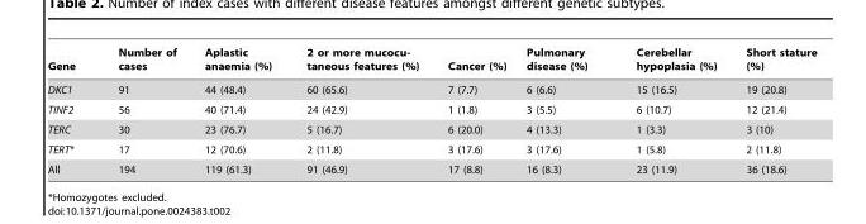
<table><thead><tr><td>Gene</td><td>Number of cases</td><td>Aplastic anaemia (%)</td><td>2 or more mucocu- taneous features (%)</td><td>Cancer (%)</td><td>Pulmonary disease (%)</td><td>Cerebellar hypoplasia (%)</td><td>Short stature (%)</td></tr></thead><tbody><tr><td>DKC1</td><td>91</td><td>44 (48.4)</td><td>60 (65.6)</td><td>7 (7.7)</td><td>6 (6.6)</td><td>15 (16.5)</td><td>19 (20.8)</td></tr><tr><td>TINF2</td><td>56</td><td>40 (71.4)</td><td>24 (42.9)</td><td>1 (1.8)</td><td>3 (5.5)</td><td>6 (10.7)</td><td>12 (21.4)</td></tr><tr><td>TERC</td><td>30</td><td>23 (76.7)</td><td>5 (16.7)</td><td>6 (20.0)</td><td>4 (13.3)</td><td>1 (3.3)</td><td>3 (10)</td></tr><tr><td>TERT*</td><td>17</td><td>12 (70.6)</td><td>2 (11.8)</td><td>3 (17.6)</td><td>3 (17.6)</td><td>1 (5.8)</td><td>2 (11.8)</td></tr><tr><td>All</td><td>194</td><td>119 (61.3)</td><td>91 (46.9)</td><td>17 (8.8)</td><td>16 (8.3)</td><td>23 (11.9)</td><td>36 (18.6)</td></tr></tbody></table>